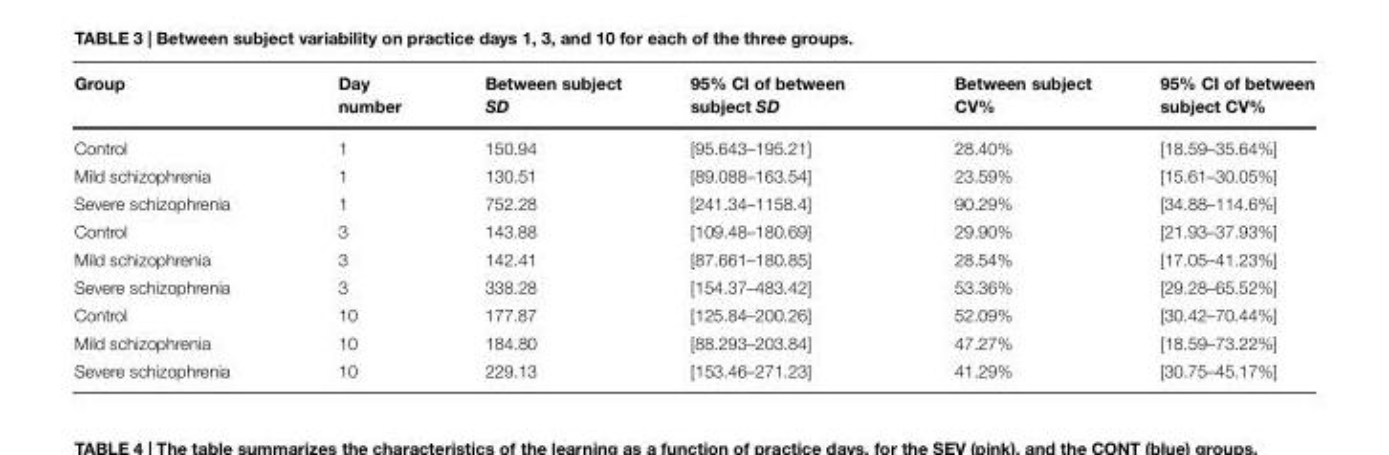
<table><thead><tr><td>Group</td><td>Day number</td><td>Between subject SD</td><td>95% CI of between subject SD</td><td>Between subject CV%</td><td>95% CI of between subject CV%</td></tr></thead><tbody><tr><td>Control</td><td>1</td><td>150.94</td><td>[95.643–195.21]</td><td>28.40%</td><td>[18.59–35.64%]</td></tr><tr><td>Mild schizophrenia</td><td>1</td><td>130.51</td><td>[89.088–163.54]</td><td>23.59%</td><td>[15.61–30.05%]</td></tr><tr><td>Severe schizophrenia</td><td>1</td><td>752.28</td><td>[241.34–1158.4]</td><td>90.29%</td><td>[34.88–114.6%]</td></tr><tr><td>Control</td><td>3</td><td>143.88</td><td>[109.48–180.69]</td><td>29.90%</td><td>[21.93–37.93%]</td></tr><tr><td>Mild schizophrenia</td><td>3</td><td>142.41</td><td>[87.661–180.85]</td><td>28.54%</td><td>[17.05–41.23%]</td></tr><tr><td>Severe schizophrenia</td><td>3</td><td>338.28</td><td>[154.37–483.42]</td><td>53.36%</td><td>[29.28–65.52%]</td></tr><tr><td>Control</td><td>10</td><td>177.87</td><td>[125.84–200.26]</td><td>52.09%</td><td>[30.42–70.44%]</td></tr><tr><td>Mild schizophrenia</td><td>10</td><td>184.80</td><td>[88.293–203.84]</td><td>47.27%</td><td>[18.59–73.22%]</td></tr><tr><td>Severe schizophrenia</td><td>10</td><td>229.13</td><td>[153.46–271.23]</td><td>41.29%</td><td>[30.75–45.17%]</td></tr></tbody></table>